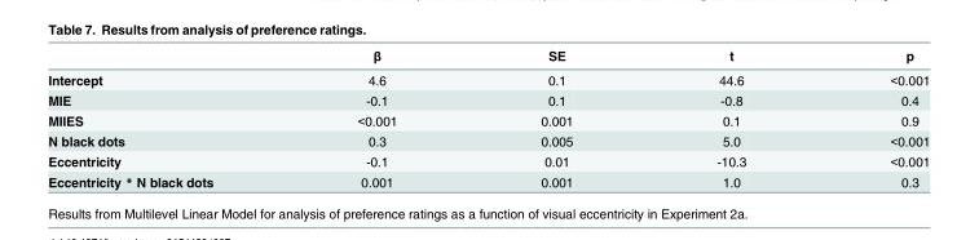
<table><thead><tr><td></td><td>β</td><td>SE</td><td>t</td><td>p</td></tr></thead><tbody><tr><td>Intercept</td><td>4.6</td><td>0.1</td><td>44.6</td><td>&lt;0.001</td></tr><tr><td>MIE</td><td>-0.1</td><td>0.1</td><td>-0.8</td><td>0.4</td></tr><tr><td>MIIES</td><td>&lt;0.001</td><td>0.001</td><td>0.1</td><td>0.9</td></tr><tr><td>N black dots</td><td>0.3</td><td>0.005</td><td>5.0</td><td>&lt;0.001</td></tr><tr><td>Eccentricity</td><td>-0.1</td><td>0.01</td><td>-10.3</td><td>&lt;0.001</td></tr><tr><td>Eccentricity * N black dots</td><td>0.001</td><td>0.001</td><td>1.0</td><td>0.3</td></tr></tbody></table>